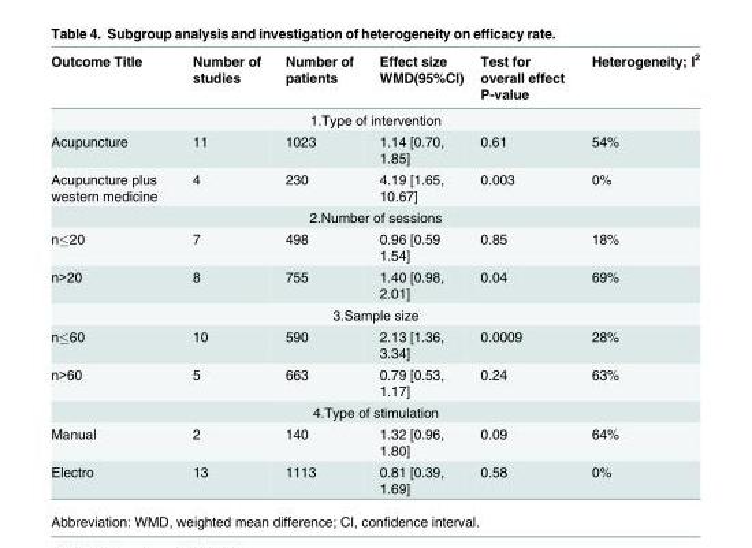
<table><thead><tr><td>Outcome Title</td><td>Number of studies</td><td>Number of patients</td><td>Effect size WMD(95%CI)</td><td>Test for overall effect P-value</td><td>Heterogeneity; I<sup>2</sup></td></tr></thead><tbody><tr><td colspan="6">1.Type of intervention</td></tr><tr><td>Acupuncture</td><td>11</td><td>1023</td><td>1.14 [0.70, 1.85]</td><td>0.61</td><td>54%</td></tr><tr><td>Acupuncture plus western medicine</td><td>4</td><td>230</td><td>4.19 [1.65, 10.67]</td><td>0.003</td><td>0%</td></tr><tr><td colspan="6">2.Number of sessions</td></tr><tr><td>n≤20</td><td>7</td><td>498</td><td>0.96 [0.59 1.54]</td><td>0.85</td><td>18%</td></tr><tr><td>n&gt;20</td><td>8</td><td>755</td><td>1.40 [0.98, 2.01]</td><td>0.04</td><td>69%</td></tr><tr><td colspan="6">3.Sample size</td></tr><tr><td>n≤60</td><td>10</td><td>590</td><td>2.13 [1.36, 3.34]</td><td>0.0009</td><td>28%</td></tr><tr><td>n&gt;60</td><td>5</td><td>663</td><td>0.79 [0.53, 1.17]</td><td>0.24</td><td>63%</td></tr><tr><td colspan="6">4.Type of stimulation</td></tr><tr><td>Manual</td><td>2</td><td>140</td><td>1.32 [0.96, 1.80]</td><td>0.09</td><td>64%</td></tr><tr><td>Electro</td><td>13</td><td>1113</td><td>0.81 [0.39, 1.69]</td><td>0.58</td><td>0%</td></tr></tbody></table>